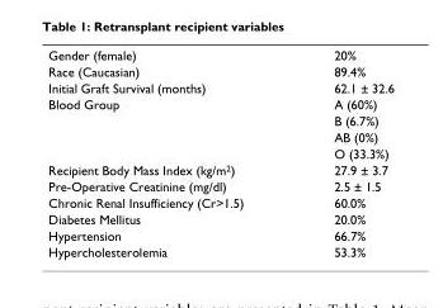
<table><tbody><tr><td>Gender (female)</td><td>20%</td></tr><tr><td>Race (Caucasian)</td><td>89.4%</td></tr><tr><td>Initial Graft Survival (months)</td><td>62.1 ± 32.6</td></tr><tr><td rowspan="4">Blood Group</td><td>A (60%)</td></tr><tr><td>B (6.7%)</td></tr><tr><td>AB (0%)</td></tr><tr><td>O (33.3%)</td></tr><tr><td>Recipient Body Mass Index (kg/m<sup>2</sup>)</td><td>27.9 ± 3.7</td></tr><tr><td>Pre-Operative Creatinine (mg/dl)</td><td>2.5 ± 1.5</td></tr><tr><td>Chronic Renal Insufficiency (Cr&gt;1.5)</td><td>60.0%</td></tr><tr><td>Diabetes Mellitus</td><td>20.0%</td></tr><tr><td>Hypertension</td><td>66.7%</td></tr><tr><td>Hypercholesterolemia</td><td>53.3%</td></tr></tbody></table>